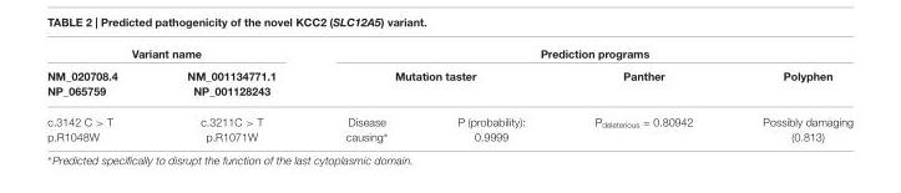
<table><thead><tr><td colspan="2">Variant name</td><td colspan="4">Prediction programs</td></tr><tr><td rowspan="2">NM_020708.4 NP_065759 c.3142 C &gt; T</td><td rowspan="2">NM_001134771.1 NP_001128243 c.3211C &gt; T</td><td colspan="2">Mutation taster</td><td rowspan="2">Panther P<sub>deleterious</sub> = 0.80942</td><td rowspan="2">Polyphen Possibly damaging</td></tr><tr><td>Disease</td><td>P (probability):</td></tr></thead><tbody><tr><td>p.R1048W</td><td>p.R1071W</td><td>causing∗</td><td>0.9999</td><td></td><td>(0.813)</td></tr></tbody></table>